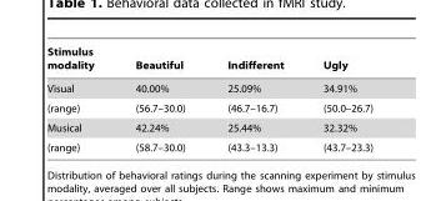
<table><thead><tr><td>Stimulus modality</td><td>Beautiful</td><td>Indifferent</td><td>Ugly</td></tr></thead><tbody><tr><td>Visual</td><td>40.00%</td><td>25.09%</td><td>34.91%</td></tr><tr><td>(range)</td><td>(56.7–30.0)</td><td>(46.7–16.7)</td><td>(50.0–26.7)</td></tr><tr><td>Musical</td><td>42.24%</td><td>25.44%</td><td>32.32%</td></tr><tr><td>(range)</td><td>(58.7–30.0)</td><td>(43.3–13.3)</td><td>(43.7–23.3)</td></tr></tbody></table>